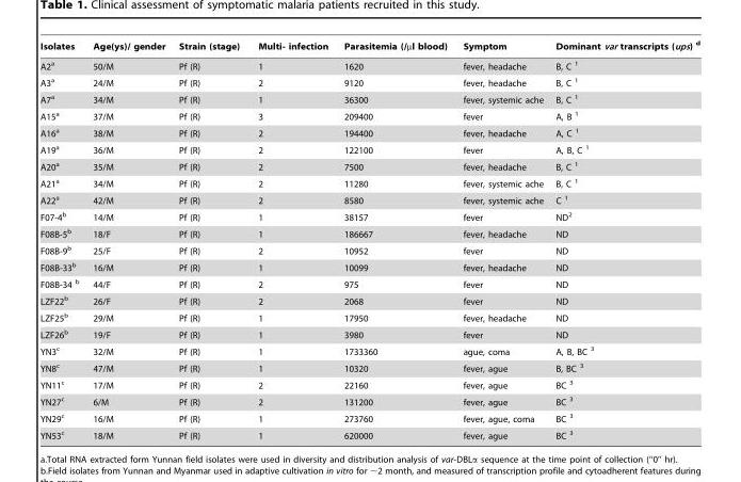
<table><thead><tr><td>Isolates</td><td>Age(ys)/ gender</td><td>Strain (stage)</td><td>Multi- infection</td><td>Parasitemia (/µl blood)</td><td>Symptom</td><td>Dominant var transcripts (ups) <sup>d</sup></td></tr></thead><tbody><tr><td>A2<sup>a</sup></td><td>50/M</td><td>Pf (R)</td><td>1</td><td>1620</td><td>fever, headache</td><td>B, C <sup>1</sup></td></tr><tr><td>A3<sup>a</sup></td><td>24/M</td><td>Pf (R)</td><td>2</td><td>9120</td><td>fever, headache</td><td>B, C <sup>1</sup></td></tr><tr><td>A7<sup>a</sup></td><td>34/M</td><td>Pf (R)</td><td>1</td><td>36300</td><td>fever, systemic ache</td><td>B, C <sup>1</sup></td></tr><tr><td>A15<sup>a</sup></td><td>37/M</td><td>Pf (R)</td><td>3</td><td>209400</td><td>fever</td><td>A, B <sup>1</sup></td></tr><tr><td>A16<sup>a</sup></td><td>38/M</td><td>Pf (R)</td><td>2</td><td>194400</td><td>fever, headache</td><td>A, C <sup>1</sup></td></tr><tr><td>A19<sup>a</sup></td><td>36/M</td><td>Pf (R)</td><td>2</td><td>122100</td><td>fever</td><td>A, B, C <sup>1</sup></td></tr><tr><td>A20<sup>a</sup></td><td>35/M</td><td>Pf (R)</td><td>2</td><td>7500</td><td>fever, headache</td><td>B, C <sup>1</sup></td></tr><tr><td>A21<sup>a</sup></td><td>34/M</td><td>Pf (R)</td><td>2</td><td>11280</td><td>fever, systemic ache</td><td>B, C <sup>1</sup></td></tr><tr><td>A22<sup>a</sup></td><td>42/M</td><td>Pf (R)</td><td>2</td><td>8580</td><td>fever, systemic ache</td><td>C <sup>1</sup></td></tr><tr><td>F07-4<sup>b</sup></td><td>14/M</td><td>Pf (R)</td><td>1</td><td>38157</td><td>fever</td><td>ND<sup>2</sup></td></tr><tr><td>F08B-5<sup>b</sup></td><td>18/F</td><td>Pf (R)</td><td>1</td><td>186667</td><td>fever, headache</td><td>ND</td></tr><tr><td>F08B-9<sup>b</sup></td><td>25/F</td><td>Pf (R)</td><td>2</td><td>10952</td><td>fever</td><td>ND</td></tr><tr><td>F08B-33<sup>b</sup></td><td>16/M</td><td>Pf (R)</td><td>1</td><td>10099</td><td>fever, headache</td><td>ND</td></tr><tr><td>F08B-34 <sup>b</sup></td><td>44/F</td><td>Pf (R)</td><td>2</td><td>975</td><td>fever</td><td>ND</td></tr><tr><td>LZF22<sup>b</sup></td><td>26/F</td><td>Pf (R)</td><td>2</td><td>2068</td><td>fever</td><td>ND</td></tr><tr><td>LZF25<sup>b</sup></td><td>29/M</td><td>Pf (R)</td><td>1</td><td>17950</td><td>fever, headache</td><td>ND</td></tr><tr><td>LZF26<sup>b</sup></td><td>19/F</td><td>Pf (R)</td><td>1</td><td>3980</td><td>fever</td><td>ND</td></tr><tr><td>YN3<sup>c</sup></td><td>32/M</td><td>Pf (R)</td><td>1</td><td>1733360</td><td>ague, coma</td><td>A, B, BC <sup>3</sup></td></tr><tr><td>YN8<sup>c</sup></td><td>47/M</td><td>Pf (R)</td><td>1</td><td>10320</td><td>fever, ague</td><td>B, BC <sup>3</sup></td></tr><tr><td>YN11<sup>c</sup></td><td>17/M</td><td>Pf (R)</td><td>2</td><td>22160</td><td>fever, ague</td><td>BC <sup>3</sup></td></tr><tr><td>YN27<sup>c</sup></td><td>6/M</td><td>Pf (R)</td><td>2</td><td>131200</td><td>fever, ague</td><td>BC <sup>3</sup></td></tr><tr><td>YN29<sup>c</sup></td><td>16/M</td><td>Pf (R)</td><td>1</td><td>273760</td><td>fever, ague, coma</td><td>BC <sup>3</sup></td></tr><tr><td>YN53<sup>c</sup></td><td>18/M</td><td>Pf (R)</td><td>1</td><td>620000</td><td>fever, ague</td><td>BC <sup>3</sup></td></tr></tbody></table>